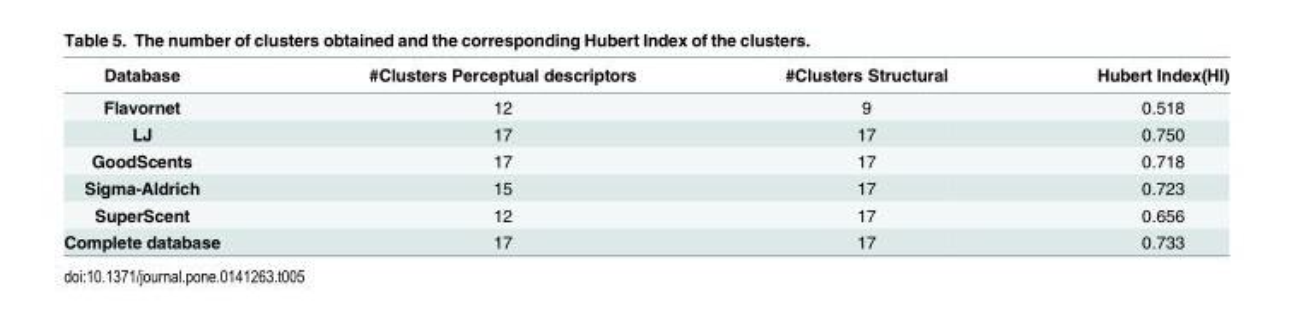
<table><thead><tr><td>Database</td><td>#Clusters Perceptual descriptors</td><td>#Clusters Structural</td><td>Hubert Index(HI)</td></tr></thead><tbody><tr><td>Flavornet</td><td>12</td><td>9</td><td>0.518</td></tr><tr><td>LJ</td><td>17</td><td>17</td><td>0.750</td></tr><tr><td>GoodScents</td><td>17</td><td>17</td><td>0.718</td></tr><tr><td>Sigma-Aldrich</td><td>15</td><td>17</td><td>0.723</td></tr><tr><td>SuperScent</td><td>12</td><td>17</td><td>0.656</td></tr><tr><td>Complete database</td><td>17</td><td>17</td><td>0.733</td></tr></tbody></table>